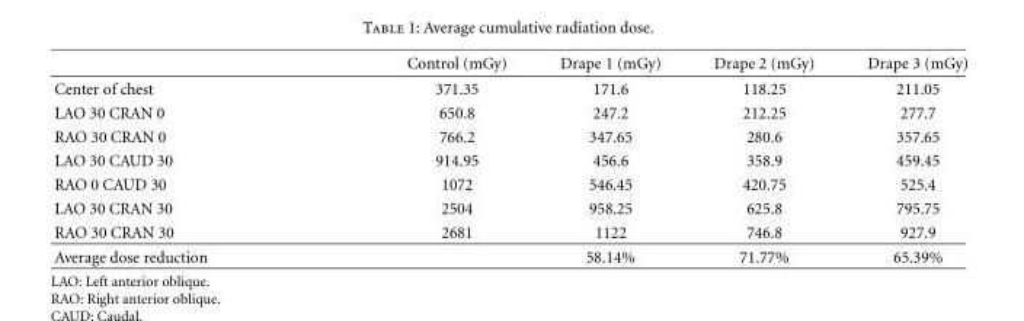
<table><thead><tr><td></td><td>Control (mGy)</td><td>Drape 1 (mGy)</td><td>Drape 2 (mGy)</td><td>Drape 3 (mGy)</td></tr></thead><tbody><tr><td>Center of chest</td><td>371.35</td><td>171.6</td><td>118.25</td><td>211.05</td></tr><tr><td>LAO 30 CRAN 0</td><td>650.8</td><td>247.2</td><td>212.25</td><td>277.7</td></tr><tr><td>RAO 30 CRAN 0</td><td>766.2</td><td>347.65</td><td>280.6</td><td>357.65</td></tr><tr><td>LAO 30 CAUD 30</td><td>914.95</td><td>456.6</td><td>358.9</td><td>459.45</td></tr><tr><td>RAO 0 CAUD 30</td><td>1072</td><td>546.45</td><td>420.75</td><td>525.4</td></tr><tr><td>LAO 30 CRAN 30</td><td>2504</td><td>958.25</td><td>625.8</td><td>795.75</td></tr><tr><td>RAO 30 CRAN 30</td><td>2681</td><td>1122</td><td>746.8</td><td>927.9</td></tr><tr><td>Average dose reduction</td><td></td><td>58.14%</td><td>71.77%</td><td>65.39%</td></tr></tbody></table>